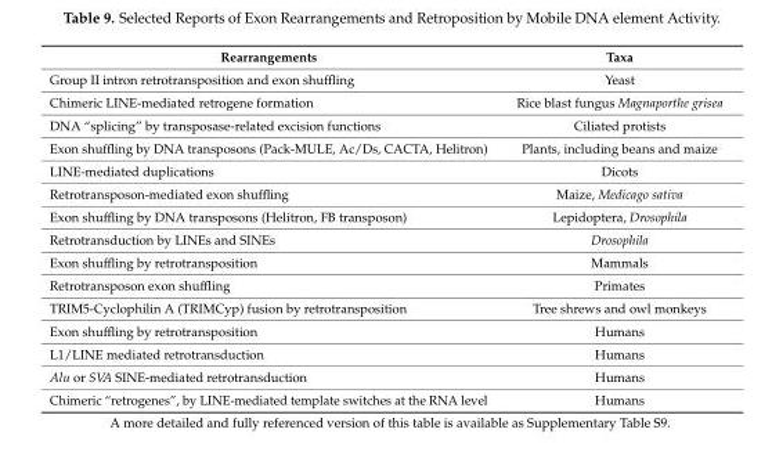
<table><thead><tr><td>Rearrangements</td><td>Taxa</td></tr></thead><tbody><tr><td>Group II intron retrotransposition and exon shuffling</td><td>Yeast</td></tr><tr><td>Chimeric LINE-mediated retrogene formation</td><td>Rice blast fungus Magnaporthe grisea</td></tr><tr><td>DNA “splicing” by transposase-related excision functions</td><td>Ciliated protists</td></tr><tr><td>Exon shuffling by DNA transposons (Pack-MULE, Ac/Ds, CACTA, Helitron)</td><td>Plants, including beans and maize</td></tr><tr><td>LINE-mediated duplications</td><td>Dicots</td></tr><tr><td>Retrotransposon-mediated exon shuffling</td><td>Maize, Medicago sativa</td></tr><tr><td>Exon shuffling by DNA transposons (Helitron, FB transposon)</td><td>Lepidoptera, Drosophila</td></tr><tr><td>Retrotransduction by LINEs and SINEs</td><td>Drosophila</td></tr><tr><td>Exon shuffling by retrotransposition</td><td>Mammals</td></tr><tr><td>Retrotransposon exon shuffling</td><td>Primates</td></tr><tr><td>TRIM5-Cyclophilin A (TRIMCyp) fusion by retrotransposition</td><td>Tree shrews and owl monkeys</td></tr><tr><td>Exon shuffling by retrotransposition</td><td>Humans</td></tr><tr><td>L1/LINE mediated retrotransduction</td><td>Humans</td></tr><tr><td>Alu or SVA SINE-mediated retrotransduction</td><td>Humans</td></tr><tr><td>Chimeric “retrogenes”, by LINE-mediated template switches at the RNA level</td><td>Humans</td></tr></tbody></table>